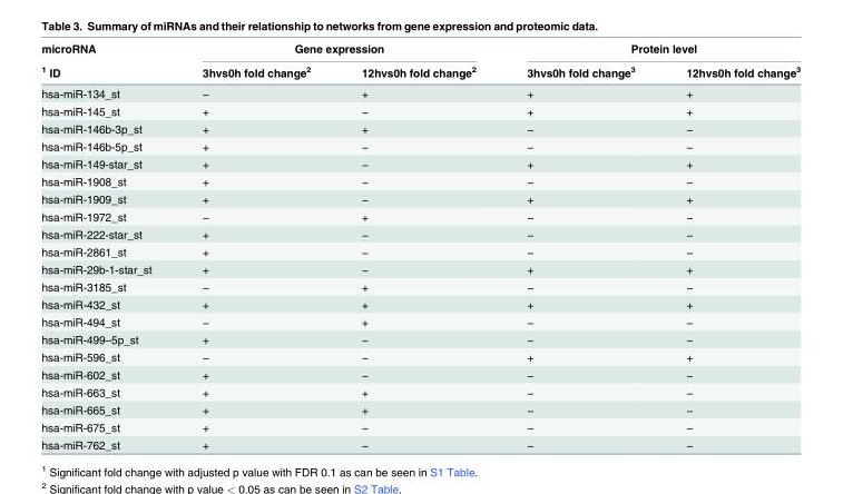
<table><thead><tr><td rowspan="2">microRNA <sup>1</sup> ID</td><td colspan="2">Gene expression</td><td colspan="2">Protein level</td></tr><tr><td>3hvs0h fold change<sup>2</sup></td><td>12hvs0h fold change<sup>2</sup></td><td>3hvs0h fold change<sup>3</sup></td><td>12hvs0h fold change<sup>3</sup></td></tr></thead><tbody><tr><td>hsa-miR-134_st</td><td>−</td><td>+</td><td>+</td><td>+</td></tr><tr><td>hsa-miR-145_st</td><td>+</td><td>−</td><td>+</td><td>+</td></tr><tr><td>hsa-miR-146b-3p_st</td><td>+</td><td>+</td><td>−</td><td>−</td></tr><tr><td>hsa-miR-146b-5p_st</td><td>+</td><td>−</td><td>−</td><td>−</td></tr><tr><td>hsa-miR-149-star_st</td><td>+</td><td>−</td><td>+</td><td>+</td></tr><tr><td>hsa-miR-1908_st</td><td>+</td><td>−</td><td>−</td><td>−</td></tr><tr><td>hsa-miR-1909_st</td><td>+</td><td>−</td><td>+</td><td>+</td></tr><tr><td>hsa-miR-1972_st</td><td>−</td><td>+</td><td>−</td><td>−</td></tr><tr><td>hsa-miR-222-star_st</td><td>+</td><td>−</td><td>−</td><td>−</td></tr><tr><td>hsa-miR-2861_st</td><td>+</td><td>−</td><td>−</td><td>−</td></tr><tr><td>hsa-miR-29b-1-star_st</td><td>+</td><td>−</td><td>+</td><td>+</td></tr><tr><td>hsa-miR-3185_st</td><td>−</td><td>+</td><td>−</td><td>−</td></tr><tr><td>hsa-miR-432_st</td><td>+</td><td>+</td><td>+</td><td>+</td></tr><tr><td>hsa-miR-494_st</td><td>−</td><td>+</td><td>−</td><td>−</td></tr><tr><td>hsa-miR-499–5p_st</td><td>+</td><td>−</td><td>−</td><td>−</td></tr><tr><td>hsa-miR-596_st</td><td>−</td><td>−</td><td>+</td><td>+</td></tr><tr><td>hsa-miR-602_st</td><td>+</td><td>−</td><td>−</td><td>−</td></tr><tr><td>hsa-miR-663_st</td><td>+</td><td>+</td><td>−</td><td>−</td></tr><tr><td>hsa-miR-665_st</td><td>+</td><td>+</td><td>−</td><td>−</td></tr><tr><td>hsa-miR-675_st</td><td>+</td><td>−</td><td>−</td><td>−</td></tr><tr><td>hsa-miR-762_st</td><td>+</td><td>−</td><td>−</td><td>−</td></tr></tbody></table>